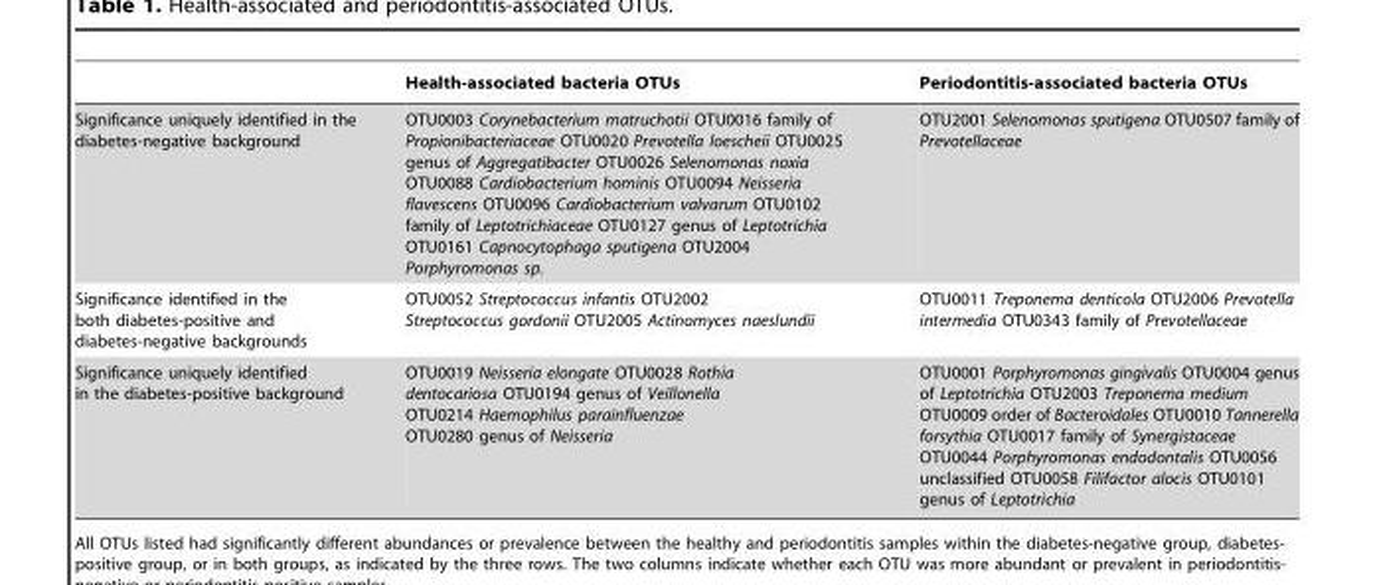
<table><thead><tr><td></td><td>Health-associated bacteria OTUs</td><td>Periodontitis-associated bacteria OTUs</td></tr></thead><tbody><tr><td>Significance uniquely identified in the diabetes-negative background</td><td>OTU0003 Corynebacterium matruchotii OTU0016 family of Propionibacteriaceae OTU0020 Prevotella loescheii OTU0025 genus of Aggregatibacter OTU0026 Selenomonas noxia OTU0088 Cardiobacterium hominis OTU0094 Neisseria flavescens OTU0096 Cardiobacterium valvarum OTU0102 family of Leptotrichiaceae OTU0127 genus of Leptotrichia OTU0161 Capnocytophaga sputigena OTU2004 Porphyromonas sp.</td><td>OTU2001 Selenomonas sputigena OTU0507 family of Prevotellaceae</td></tr><tr><td>Significance identified in the both diabetes-positive and diabetes-negative backgrounds</td><td>OTU0052 Streptococcus infantis OTU2002 Streptococcus gordonii OTU2005 Actinomyces naeslundii</td><td>OTU0011 Treponema denticola OTU2006 Prevotella intermedia OTU0343 family of Prevotellaceae</td></tr><tr><td>Significance uniquely identified in the diabetes-positive background</td><td>OTU0019 Neisseria elongate OTU0028 Rothia dentocariosa OTU0194 genus of Veillonella OTU0214 Haemophilus parainfluenzae OTU0280 genus of Neisseria</td><td>OTU0001 Porphyromonas gingivalis OTU0004 genus of Leptotrichia OTU2003 Treponema medium OTU0009 order of Bacteroidales OTU0010 Tannerella forsythia OTU0017 family of Synergistaceae OTU0044 Porphyromonas endodontalis OTU0056 unclassified OTU0058 Filifactor alocis OTU0101 genus of Leptotrichia</td></tr></tbody></table>